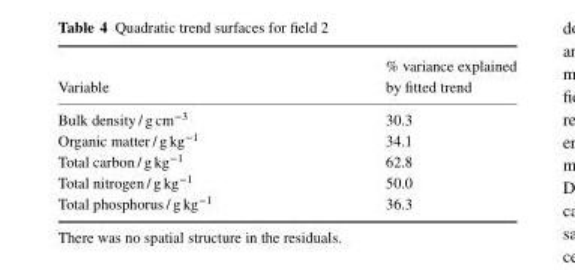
<table><thead><tr><td>Variable</td><td>% variance explained by fitted trend</td></tr></thead><tbody><tr><td>Bulk density / g cm<sup>−3</sup></td><td>30.3</td></tr><tr><td>Organic matter / g kg<sup>−1</sup></td><td>34.1</td></tr><tr><td>Total carbon / g kg<sup>−1</sup></td><td>62.8</td></tr><tr><td>Total nitrogen / g kg<sup>−1</sup></td><td>50.0</td></tr><tr><td>Total phosphorus / g kg<sup>−1</sup></td><td>36.3</td></tr></tbody></table>